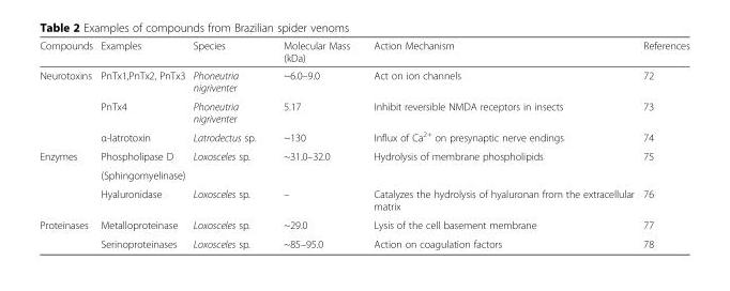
<table><thead><tr><td>Compounds</td><td>Examples</td><td>Species</td><td>Molecular Mass (kDa)</td><td>Action Mechanism</td><td>References</td></tr></thead><tbody><tr><td rowspan="3">Neurotoxins</td><td>PnTx1,PnTx2, PnTx3</td><td>Phoneutria nigriventer</td><td>~6.0–9.0</td><td>Act on ion channels</td><td>72</td></tr><tr><td>PnTx4</td><td>Phoneutria nigriventer</td><td>5.17</td><td>Inhibit reversible NMDA receptors in insects</td><td>73</td></tr><tr><td>α-latrotoxin</td><td>Latrodectus sp.</td><td>~130</td><td>Influx of Ca<sup>2+</sup> on presynaptic nerve endings</td><td>74</td></tr><tr><td rowspan="3">Enzymes</td><td>Phospholipase D</td><td rowspan="2">Loxosceles sp.</td><td rowspan="2">~31.0–32.0</td><td rowspan="2">Hydrolysis of membrane phospholipids</td><td rowspan="2">75</td></tr><tr><td>(Sphingomyelinase)</td></tr><tr><td>Hyaluronidase</td><td>Loxosceles sp.</td><td>–</td><td>Catalyzes the hydrolysis of hyaluronan from the extracellular matrix</td><td>76</td></tr><tr><td rowspan="2">Proteinases</td><td>Metalloproteinase</td><td>Loxosceles sp.</td><td>~29.0</td><td>Lysis of the cell basement membrane</td><td>77</td></tr><tr><td>Serinoproteinases</td><td>Loxosceles sp.</td><td>~85–95.0</td><td>Action on coagulation factors</td><td>78</td></tr></tbody></table>